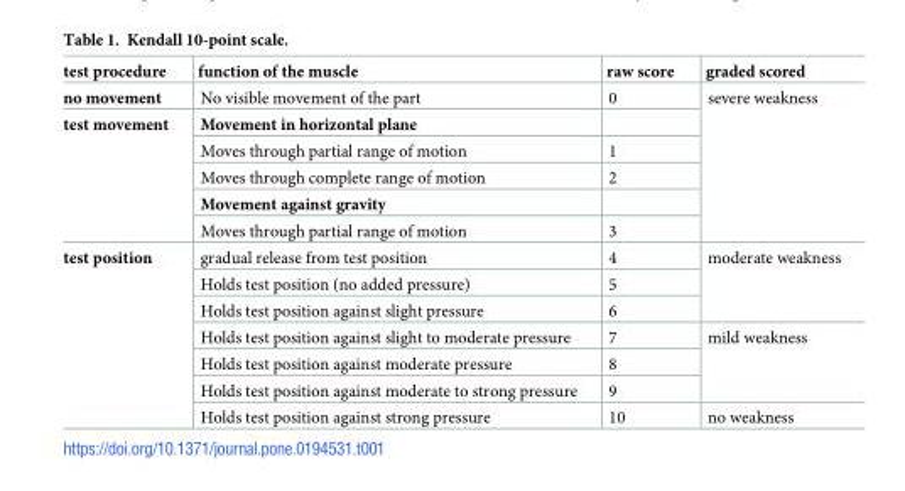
<table><thead><tr><td>test procedure</td><td>function of the muscle</td><td>raw score</td><td>graded scored</td></tr></thead><tbody><tr><td>no movement</td><td>No visible movement of the part</td><td>0</td><td rowspan="6">severe weakness</td></tr><tr><td rowspan="5">test movement</td><td>Movement in horizontal plane</td><td></td></tr><tr><td>Moves through partial range of motion</td><td>1</td></tr><tr><td>Moves through complete range of motion</td><td>2</td></tr><tr><td>Movement against gravity</td><td></td></tr><tr><td>Moves through partial range of motion</td><td>3</td></tr><tr><td rowspan="7">test position</td><td>gradual release from test position</td><td>4</td><td rowspan="3">moderate weakness</td></tr><tr><td>Holds test position (no added pressure)</td><td>5</td></tr><tr><td>Holds test position against slight pressure</td><td>6</td></tr><tr><td>Holds test position against slight to moderate pressure</td><td>7</td><td rowspan="3">mild weakness</td></tr><tr><td>Holds test position against moderate pressure</td><td>8</td></tr><tr><td>Holds test position against moderate to strong pressure</td><td>9</td></tr><tr><td>Holds test position against strong pressure</td><td>10</td><td>no weakness</td></tr></tbody></table>